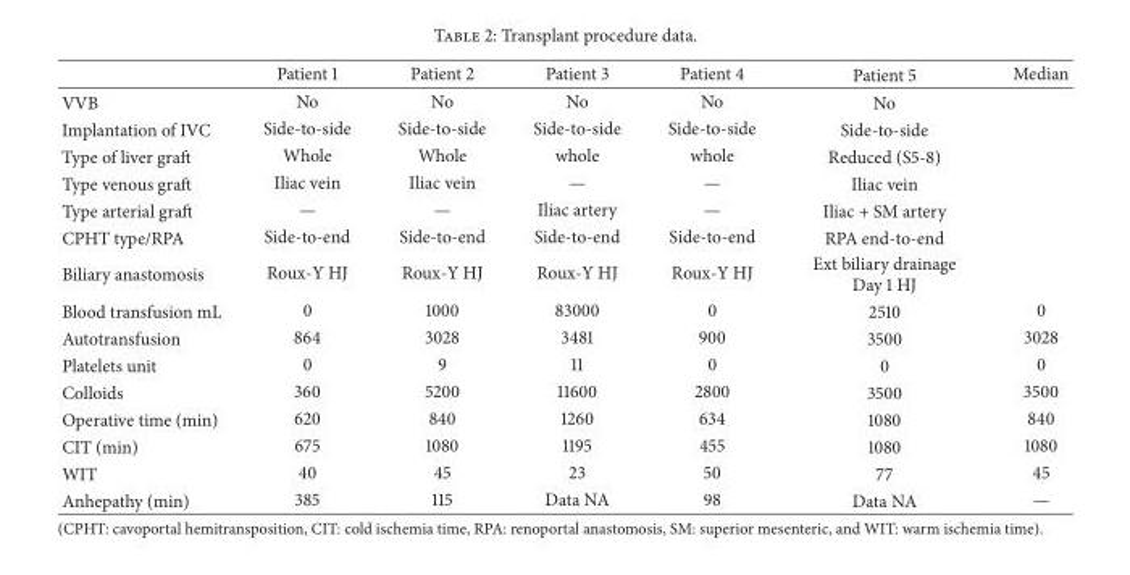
<table><thead><tr><td></td><td>Patient 1</td><td>Patient 2</td><td>Patient 3</td><td>Patient 4</td><td>Patient 5</td><td>Median</td></tr></thead><tbody><tr><td>VVB</td><td>No</td><td>No</td><td>No</td><td>No</td><td>No</td><td></td></tr><tr><td>Implantation of IVC</td><td>Side-to-side</td><td>Side-to-side</td><td>Side-to-side</td><td>Side-to-side</td><td>Side-to-side</td><td></td></tr><tr><td>Type of liver graft</td><td>Whole</td><td>Whole</td><td>whole</td><td>whole</td><td>Reduced (S5-8)</td><td></td></tr><tr><td>Type venous graft</td><td>Iliac vein</td><td>Iliac vein</td><td>—</td><td>—</td><td>Iliac vein</td><td></td></tr><tr><td>Type arterial graft</td><td>—</td><td>—</td><td>Iliac artery</td><td>—</td><td>Iliac + SM artery</td><td></td></tr><tr><td>CPHT type/RPA</td><td>Side-to-end</td><td>Side-to-end</td><td>Side-to-end</td><td>Side-to-end</td><td>RPA end-to-end</td><td></td></tr><tr><td>Biliary anastomosis</td><td>Roux-Y HJ</td><td>Roux-Y HJ</td><td>Roux-Y HJ</td><td>Roux-Y HJ</td><td>Ext biliary drainage Day 1 HJ</td><td></td></tr><tr><td>Blood transfusion mL</td><td>0</td><td>1000</td><td>83000</td><td>0</td><td>2510</td><td>0</td></tr><tr><td>Autotransfusion</td><td>864</td><td>3028</td><td>3481</td><td>900</td><td>3500</td><td>3028</td></tr><tr><td>Platelets unit</td><td>0</td><td>9</td><td>11</td><td>0</td><td>0</td><td>0</td></tr><tr><td>Colloids</td><td>360</td><td>5200</td><td>11600</td><td>2800</td><td>3500</td><td>3500</td></tr><tr><td>Operative time (min)</td><td>620</td><td>840</td><td>1260</td><td>634</td><td>1080</td><td>840</td></tr><tr><td>CIT (min)</td><td>675</td><td>1080</td><td>1195</td><td>455</td><td>1080</td><td>1080</td></tr><tr><td>WIT</td><td>40</td><td>45</td><td>23</td><td>50</td><td>77</td><td>45</td></tr><tr><td>Anhepathy (min)</td><td>385</td><td>115</td><td>Data NA</td><td>98</td><td>Data NA</td><td>—</td></tr></tbody></table>